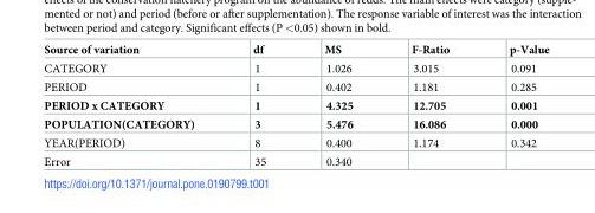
<table><thead><tr><td>Source of variation</td><td>df</td><td>MS</td><td>F-Ratio</td><td>p-Value</td></tr></thead><tbody><tr><td>CATEGORY</td><td>1</td><td>1.026</td><td>3.015</td><td>0.091</td></tr><tr><td>PERIOD</td><td>1</td><td>0.402</td><td>1.181</td><td>0.285</td></tr><tr><td>PERIOD x CATEGORY</td><td>1</td><td>4.325</td><td>12.705</td><td>0.001</td></tr><tr><td>POPULATION(CATEGORY)</td><td>3</td><td>5.476</td><td>16.086</td><td>0.000</td></tr><tr><td>YEAR(PERIOD)</td><td>8</td><td>0.400</td><td>1.174</td><td>0.342</td></tr><tr><td>Error</td><td>35</td><td>0.340</td><td></td><td></td></tr></tbody></table>